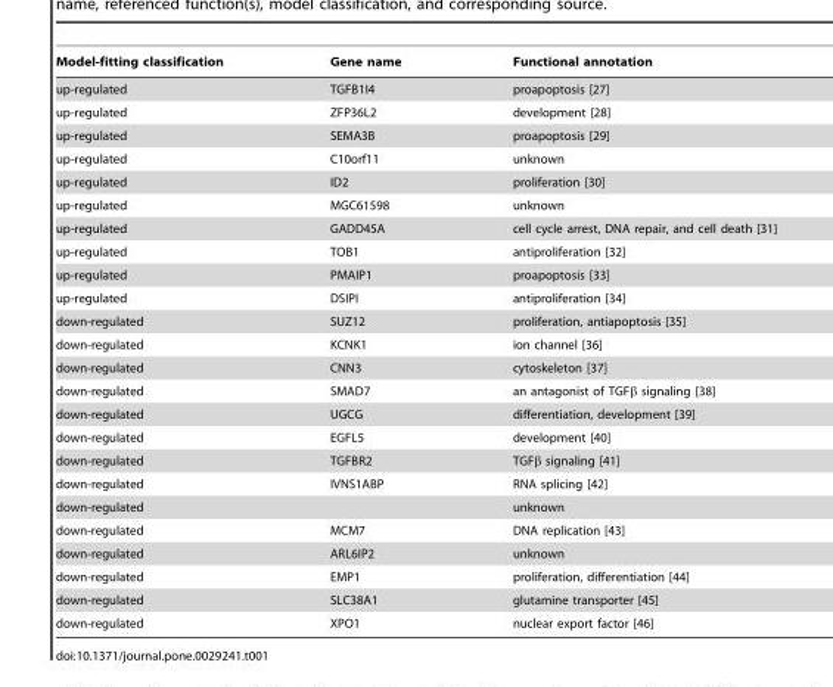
<table><thead><tr><td>Model-fitting classification</td><td>Gene name</td><td>Functional annotation</td></tr></thead><tbody><tr><td>up-regulated</td><td>TGFB1I4</td><td>proapoptosis [27]</td></tr><tr><td>up-regulated</td><td>ZFP36L2</td><td>development [28]</td></tr><tr><td>up-regulated</td><td>SEMA3B</td><td>proapoptosis [29]</td></tr><tr><td>up-regulated</td><td>C10orf11</td><td>unknown</td></tr><tr><td>up-regulated</td><td>ID2</td><td>proliferation [30]</td></tr><tr><td>up-regulated</td><td>MGC61598</td><td>unknown</td></tr><tr><td>up-regulated</td><td>GADD45A</td><td>cell cycle arrest, DNA repair, and cell death [31]</td></tr><tr><td>up-regulated</td><td>TOB1</td><td>antiproliferation [32]</td></tr><tr><td>up-regulated</td><td>PMAIP1</td><td>proapoptosis [33]</td></tr><tr><td>up-regulated</td><td>DSIPI</td><td>antiproliferation [34]</td></tr><tr><td>down-regulated</td><td>SUZ12</td><td>proliferation, antiapoptosis [35]</td></tr><tr><td>down-regulated</td><td>KCNK1</td><td>ion channel [36]</td></tr><tr><td>down-regulated</td><td>CNN3</td><td>cytoskeleton [37]</td></tr><tr><td>down-regulated</td><td>SMAD7</td><td>an antagonist of TGFβ signaling [38]</td></tr><tr><td>down-regulated</td><td>UGCG</td><td>differentiation, development [39]</td></tr><tr><td>down-regulated</td><td>EGFL5</td><td>development [40]</td></tr><tr><td>down-regulated</td><td>TGFBR2</td><td>TGFβ signaling [41]</td></tr><tr><td>down-regulated</td><td>IVNS1ABP</td><td>RNA splicing [42]</td></tr><tr><td>down-regulated</td><td></td><td>unknown</td></tr><tr><td>down-regulated</td><td>MCM7</td><td>DNA replication [43]</td></tr><tr><td>down-regulated</td><td>ARL6IP2</td><td>unknown</td></tr><tr><td>down-regulated</td><td>EMP1</td><td>proliferation, differentiation [44]</td></tr><tr><td>down-regulated</td><td>SLC38A1</td><td>glutamine transporter [45]</td></tr><tr><td>down-regulated</td><td>XPO1</td><td>nuclear export factor [46]</td></tr></tbody></table>